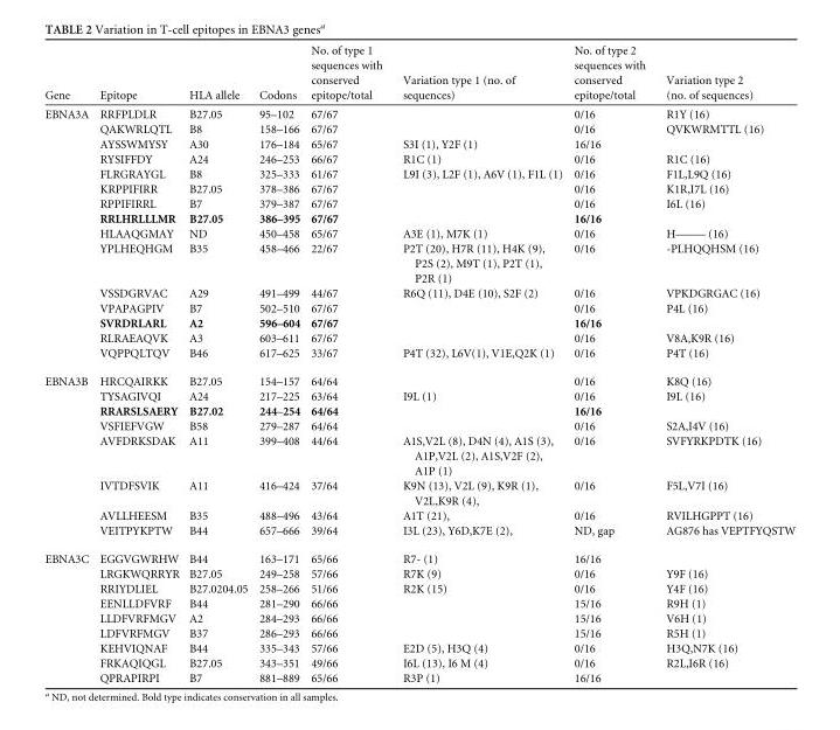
<table><thead><tr><td>Gene</td><td>Epitope</td><td>HLA allele</td><td>Codons</td><td>No. of type 1 sequences with conserved epitope/total</td><td>Variation type 1 (no. of sequences)</td><td>No. of type 2 sequences with conserved epitope/total</td><td>Variation type 2 (no. of sequences)</td></tr></thead><tbody><tr><td rowspan="15">EBNA3A</td><td>RRFPLDLR</td><td>B27.05</td><td>95–102</td><td>67/67</td><td></td><td>0/16</td><td>R1Y (16)</td></tr><tr><td>QAKWRLQTL</td><td>B8</td><td>158–166</td><td>67/67</td><td></td><td>0/16</td><td>QVKWRMTTL (16)</td></tr><tr><td>AYSSWMYSY</td><td>A30</td><td>176–184</td><td>65/67</td><td>S3I (1), Y2F (1)</td><td>16/16</td><td></td></tr><tr><td>RYSIFFDY</td><td>A24</td><td>246–253</td><td>66/67</td><td>R1C (1)</td><td>0/16</td><td>R1C (16)</td></tr><tr><td>FLRGRAYGL</td><td>B8</td><td>325–333</td><td>61/67</td><td>L9I (3), L2F (1), A6V (1), F1L (1)</td><td>0/16</td><td>F1L,L9Q (16)</td></tr><tr><td>KRPPIFIRR</td><td>B27.05</td><td>378–386</td><td>67/67</td><td></td><td>0/16</td><td>K1R,I7L (16)</td></tr><tr><td>RPPIFIRRL</td><td>B7</td><td>379–387</td><td>67/67</td><td></td><td>0/16</td><td>I6L (16)</td></tr><tr><td>RRLHRLLLMR</td><td>B27.05</td><td>386–395</td><td>67/67</td><td></td><td>16/16</td><td></td></tr><tr><td>HLAAQGMAY</td><td>ND</td><td>450–458</td><td>65/67</td><td>A3E (1), M7K (1)</td><td>0/16</td><td>H——– (16)</td></tr><tr><td>YPLHEQHGM</td><td>B35</td><td>458–466</td><td>22/67</td><td>P2T (20), H7R (11), H4K (9), P2S (2), M9T (1), P2T (1), P2R (1)</td><td>0/16</td><td>-PLHQQHSM (16)</td></tr><tr><td>VSSDGRVAC</td><td>A29</td><td>491–499</td><td>44/67</td><td>R6Q (11), D4E (10), S2F (2)</td><td>0/16</td><td>VPKDGRGAC (16)</td></tr><tr><td>VPAPAGPIV</td><td>B7</td><td>502–510</td><td>67/67</td><td></td><td>0/16</td><td>P4L (16)</td></tr><tr><td>SVRDRLARL</td><td>A2</td><td>596–604</td><td>67/67</td><td></td><td>16/16</td><td></td></tr><tr><td>RLRAEAQVK</td><td>A3</td><td>603–611</td><td>67/67</td><td></td><td>0/16</td><td>V8A,K9R (16)</td></tr><tr><td>VQPPQLTQV</td><td>B46</td><td>617–625</td><td>33/67</td><td>P4T (32), L6V(1), V1E,Q2K (1)</td><td>0/16</td><td>P4T (16)</td></tr><tr><td rowspan="8">EBNA3B</td><td>HRCQAIRKK</td><td>B27.05</td><td>154–157</td><td>64/64</td><td></td><td>0/16</td><td>K8Q (16)</td></tr><tr><td>TYSAGIVQI</td><td>A24</td><td>217–225</td><td>63/64</td><td>I9L (1)</td><td>0/16</td><td>I9L (16)</td></tr><tr><td>RRARSLSAERY</td><td>B27.02</td><td>244–254</td><td>64/64</td><td></td><td>16/16</td><td></td></tr><tr><td>VSFIEFVGW</td><td>B58</td><td>279–287</td><td>64/64</td><td></td><td>0/16</td><td>S2A,I4V (16)</td></tr><tr><td>AVFDRKSDAK</td><td>A11</td><td>399–408</td><td>44/64</td><td>A1S,V2L (8), D4N (4), A1S (3), A1P,V2L (2), A1S,V2F (2), A1P (1)</td><td>0/16</td><td>SVFYRKPDTK (16)</td></tr><tr><td>IVTDFSVIK</td><td>A11</td><td>416–424</td><td>37/64</td><td>K9N (13), V2L (9), K9R (1), V2L,K9R (4),</td><td>0/16</td><td>F5L,V7I (16)</td></tr><tr><td>AVLLHEESM</td><td>B35</td><td>488–496</td><td>43/64</td><td>A1T (21),</td><td>0/16</td><td>RVILHGPPT (16)</td></tr><tr><td>VEITPYKPTW</td><td>B44</td><td>657–666</td><td>39/64</td><td>I3L (23), Y6D,K7E (2),</td><td>ND, gap</td><td>AG876 has VEPTFYQSTW</td></tr><tr><td rowspan="9">EBNA3C</td><td>EGGVGWRHW</td><td>B44</td><td>163–171</td><td>65/66</td><td>R7- (1)</td><td>16/16</td><td></td></tr><tr><td>LRGKWQRRYR</td><td>B27.05</td><td>249–258</td><td>57/66</td><td>R7K (9)</td><td>0/16</td><td>Y9F (16)</td></tr><tr><td>RRIYDLIEL</td><td>B27.0204.05</td><td>258–266</td><td>51/66</td><td>R2K (15)</td><td>0/16</td><td>Y4F (16)</td></tr><tr><td>EENLLDFVRF</td><td>B44</td><td>281–290</td><td>66/66</td><td></td><td>15/16</td><td>R9H (1)</td></tr><tr><td>LLDFVRFMGV</td><td>A2</td><td>284–293</td><td>66/66</td><td></td><td>15/16</td><td>V6H (1)</td></tr><tr><td>LDFVRFMGV</td><td>B37</td><td>286–293</td><td>66/66</td><td></td><td>15/16</td><td>R5H (1)</td></tr><tr><td>KEHVIQNAF</td><td>B44</td><td>335–343</td><td>57/66</td><td>E2D (5), H3Q (4)</td><td>0/16</td><td>H3Q,N7K (16)</td></tr><tr><td>FRKAQIQGL</td><td>B27.05</td><td>343–351</td><td>49/66</td><td>I6L (13), I6 M (4)</td><td>0/16</td><td>R2L,I6R (16)</td></tr><tr><td>QPRAPIRPI</td><td>B7</td><td>881–889</td><td>65/66</td><td>R3P (1)</td><td>16/16</td><td></td></tr></tbody></table>